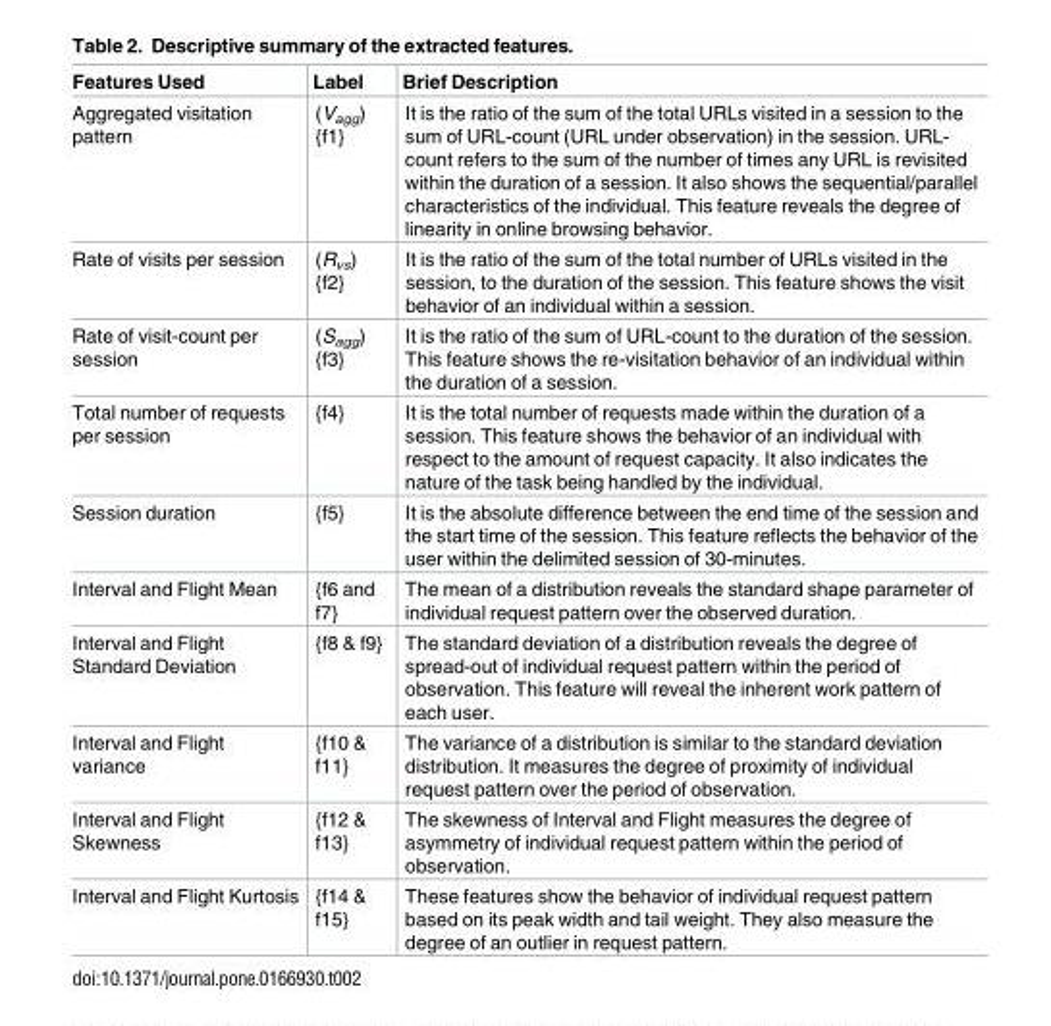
<table><thead><tr><td>Features Used</td><td>Label</td><td>Brief Description</td></tr></thead><tbody><tr><td>Aggregated visitation pattern</td><td>(V<sub>agg</sub>) {f1}</td><td>It is the ratio of the sum of the total URLs visited in a session to the sum of URL-count (URL under observation) in the session. URL- count refers to the sum of the number of times any URL is revisited within the duration of a session. It also shows the sequential/parallel characteristics of the individual. This feature reveals the degree of linearity in online browsing behavior.</td></tr><tr><td>Rate of visits per session</td><td>(R<sub>vs</sub>) {f2}</td><td>It is the ratio of the sum of the total number of URLs visited in the session, to the duration of the session. This feature shows the visit behavior of an individual within a session.</td></tr><tr><td>Rate of visit-count per session</td><td>(S<sub>agg</sub>) {f3}</td><td>It is the ratio of the sum of URL-count to the duration of the session. This feature shows the re-visitation behavior of an individual within the duration of a session.</td></tr><tr><td>Total number of requests per session</td><td>{f4}</td><td>It is the total number of requests made within the duration of a session. This feature shows the behavior of an individual with respect to the amount of request capacity. It also indicates the nature of the task being handled by the individual.</td></tr><tr><td>Session duration</td><td>{f5}</td><td>It is the absolute difference between the end time of the session and the start time of the session. This feature reflects the behavior of the user within the delimited session of 30-minutes.</td></tr><tr><td>Interval and Flight Mean</td><td>{f6 and f7}</td><td>The mean of a distribution reveals the standard shape parameter of individual request pattern over the observed duration.</td></tr><tr><td>Interval and Flight Standard Deviation</td><td>{f8 &amp; f9}</td><td>The standard deviation of a distribution reveals the degree of spread-out of individual request pattern within the period of observation. This feature will reveal the inherent work pattern of each user.</td></tr><tr><td>Interval and Flight variance</td><td>{f10 &amp; f11}</td><td>The variance of a distribution is similar to the standard deviation distribution. It measures the degree of proximity of individual request pattern over the period of observation.</td></tr><tr><td>Interval and Flight Skewness</td><td>{f12 &amp; f13}</td><td>The skewness of Interval and Flight measures the degree of asymmetry of individual request pattern within the period of observation.</td></tr><tr><td>Interval and Flight Kurtosis</td><td>{f14 &amp; f15}</td><td>These features show the behavior of individual request pattern based on its peak width and tail weight. They also measure the degree of an outlier in request pattern.</td></tr></tbody></table>